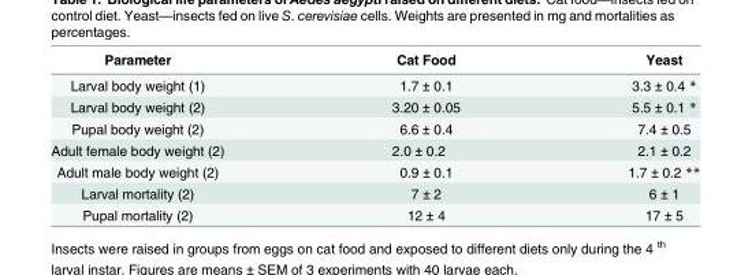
<table><thead><tr><td>Parameter</td><td>Cat Food</td><td>Yeast</td></tr></thead><tbody><tr><td>Larval body weight (1)</td><td>1.7 ± 0.1</td><td>3.3 ± 0.4 *</td></tr><tr><td>Larval body weight (2)</td><td>3.20 ± 0.05</td><td>5.5 ± 0.1 *</td></tr><tr><td>Pupal body weight (2)</td><td>6.6 ± 0.4</td><td>7.4 ± 0.5</td></tr><tr><td>Adult female body weight (2)</td><td>2.0 ± 0.2</td><td>2.1 ± 0.2</td></tr><tr><td>Adult male body weight (2)</td><td>0.9 ± 0.1</td><td>1.7 ± 0.2 **</td></tr><tr><td>Larval mortality (2)</td><td>7 ± 2</td><td>6 ± 1</td></tr><tr><td>Pupal mortality (2)</td><td>12 ± 4</td><td>17 ± 5</td></tr></tbody></table>